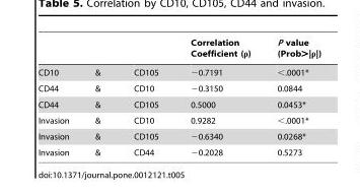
<table><thead><tr><td></td><td></td><td></td><td>Correlation Coefficient (ρ)</td><td>P value (Prob&gt;|ρ|)</td></tr></thead><tbody><tr><td>CD10</td><td>&amp;</td><td>CD105</td><td>−0.7191</td><td>&lt;.0001*</td></tr><tr><td>CD44</td><td>&amp;</td><td>CD10</td><td>−0.3150</td><td>0.0844</td></tr><tr><td>CD44</td><td>&amp;</td><td>CD105</td><td>0.5000</td><td>0.0453*</td></tr><tr><td>Invasion</td><td>&amp;</td><td>CD10</td><td>0.9282</td><td>&lt;.0001*</td></tr><tr><td>Invasion</td><td>&amp;</td><td>CD105</td><td>−0.6340</td><td>0.0268*</td></tr><tr><td>Invasion</td><td>&amp;</td><td>CD44</td><td>−0.2028</td><td>0.5273</td></tr></tbody></table>